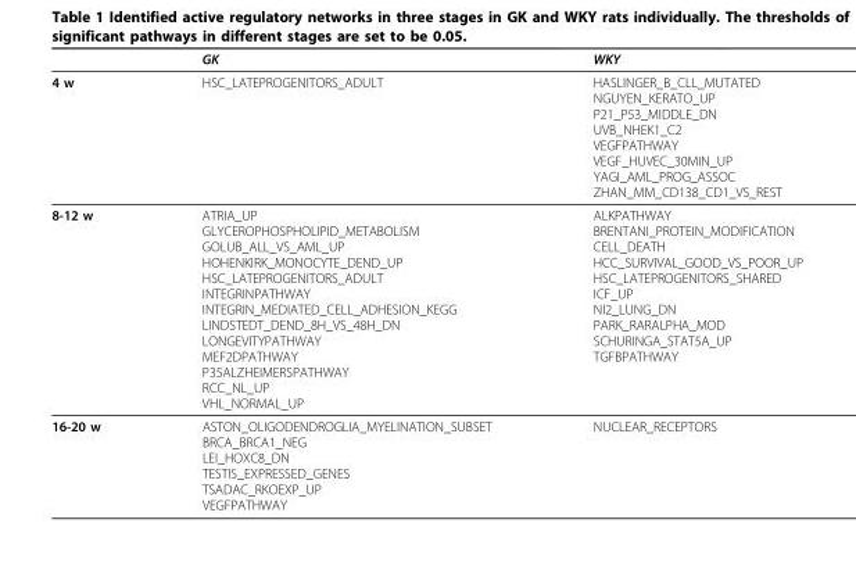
<table><thead><tr><td></td><td>GK</td><td>WKY</td></tr></thead><tbody><tr><td>4 w</td><td>HSC_LATEPROGENITORS_ADULT</td><td>HASLINGER_B_CLL_MUTATED NGUYEN_KERATO_UP P21_P53_MIDDLE_DN UVB_NHEK1_C2 VEGFPATHWAY VEGF_HUVEC_30MIN_UP YAGI_AML_PROG_ASSOC ZHAN_MM_CD138_CD1_VS_REST</td></tr><tr><td>8-12 w</td><td>ATRIA_UP GLYCEROPHOSPHOLIPID_METABOLISM GOLUB_ALL_VS_AML_UP HOHENKIRK_MONOCYTE_DEND_UP HSC_LATEPROGENITORS_ADULT INTEGRINPATHWAY INTEGRIN_MEDIATED_CELL_ADHESION_KEGG LINDSTEDT_DEND_8H_VS_48H_DN LONGEVITYPATHWAY MEF2DPATHWAY P35ALZHEIMERSPATHWAY RCC_NL_UP VHL_NORMAL_UP</td><td>ALKPATHWAY BRENTANI_PROTEIN_MODIFICATION CELL_DEATH HCC_SURVIVAL_GOOD_VS_POOR_UP HSC_LATEPROGENITORS_SHARED ICF_UP NI2_LUNG_DN PARK_RARALPHA_MOD SCHURINGA_STAT5A_UP TGFBPATHWAY</td></tr><tr><td>16-20 w</td><td>ASTON_OLIGODENDROGLIA_MYELINATION_SUBSET BRCA_BRCA1_NEG LEI_HOXC8_DN TESTIS_EXPRESSED_GENES TSADAC_RKOEXP_UP VEGFPATHWAY</td><td>NUCLEAR_RECEPTORS</td></tr></tbody></table>